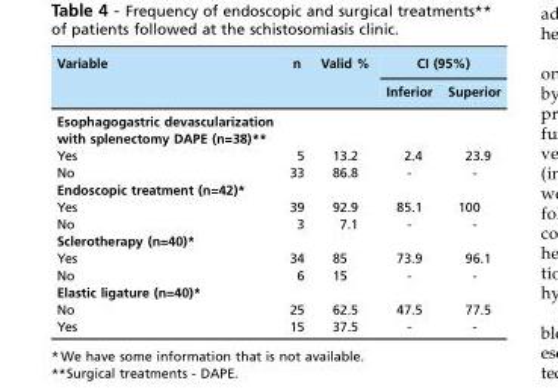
<table><thead><tr><td rowspan="2">Variable</td><td rowspan="2">n</td><td rowspan="2">Valid %</td><td colspan="2">CI (95%)</td></tr><tr><td>Inferior</td><td>Superior</td></tr></thead><tbody><tr><td colspan="5">Esophagogastric devascularization with splenectomy DAPE (n=38)**</td></tr><tr><td>Yes</td><td>5</td><td>13.2</td><td>2.4</td><td>23.9</td></tr><tr><td>No</td><td>33</td><td>86.8</td><td>-</td><td>-</td></tr><tr><td colspan="5">Endoscopic treatment (n=42)*</td></tr><tr><td>Yes</td><td>39</td><td>92.9</td><td>85.1</td><td>100</td></tr><tr><td>No</td><td>3</td><td>7.1</td><td>-</td><td>-</td></tr><tr><td colspan="5">Sclerotherapy (n=40)*</td></tr><tr><td>Yes</td><td>34</td><td>85</td><td>73.9</td><td>96.1</td></tr><tr><td>No</td><td>6</td><td>15</td><td>-</td><td>-</td></tr><tr><td colspan="5">Elastic ligature (n=40)*</td></tr><tr><td>No</td><td>25</td><td>62.5</td><td>47.5</td><td>77.5</td></tr><tr><td>Yes</td><td>15</td><td>37.5</td><td>-</td><td>-</td></tr></tbody></table>